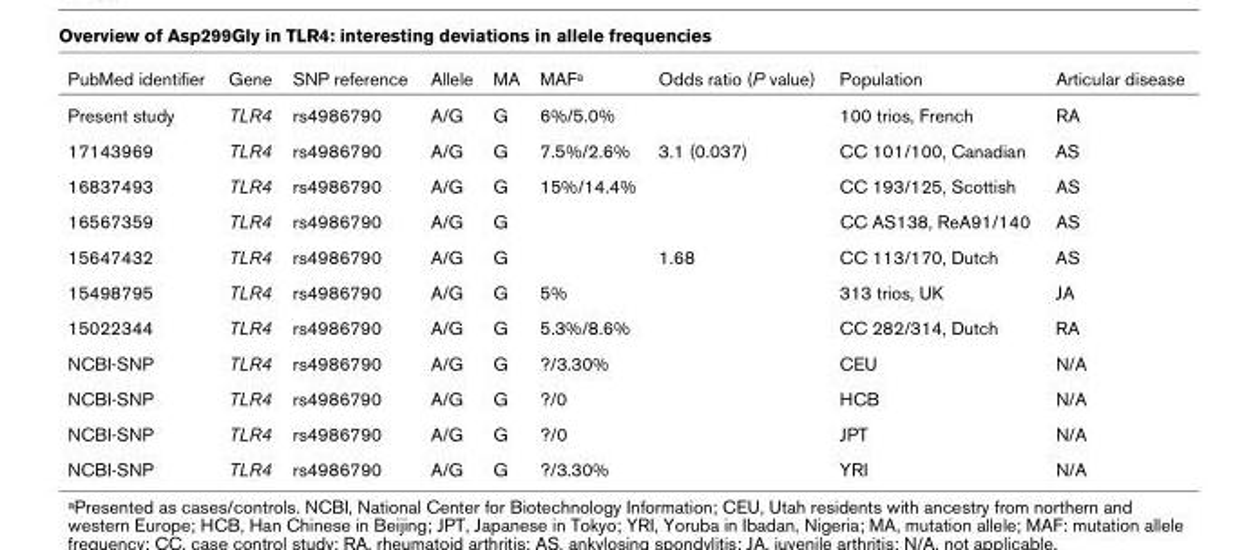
<table><thead><tr><td>PubMed identifier</td><td>Gene</td><td>SNP reference</td><td>Allele</td><td>MA</td><td>MAF<sup>a</sup></td><td>Odds ratio (P value)</td><td>Population</td><td>Articular disease</td></tr></thead><tbody><tr><td>Present study</td><td>TLR4</td><td>rs4986790</td><td>A/G</td><td>G</td><td>6%/5.0%</td><td></td><td>100 trios, French</td><td>RA</td></tr><tr><td>17143969</td><td>TLR4</td><td>rs4986790</td><td>A/G</td><td>G</td><td>7.5%/2.6%</td><td>3.1 (0.037)</td><td>CC 101/100, Canadian</td><td>AS</td></tr><tr><td>16837493</td><td>TLR4</td><td>rs4986790</td><td>A/G</td><td>G</td><td>15%/14.4%</td><td></td><td>CC 193/125, Scottish</td><td>AS</td></tr><tr><td>16567359</td><td>TLR4</td><td>rs4986790</td><td>A/G</td><td>G</td><td></td><td></td><td>CC AS138, ReA91/140</td><td>AS</td></tr><tr><td>15647432</td><td>TLR4</td><td>rs4986790</td><td>A/G</td><td>G</td><td></td><td>1.68</td><td>CC 113/170, Dutch</td><td>AS</td></tr><tr><td>15498795</td><td>TLR4</td><td>rs4986790</td><td>A/G</td><td>G</td><td>5%</td><td></td><td>313 trios, UK</td><td>JA</td></tr><tr><td>15022344</td><td>TLR4</td><td>rs4986790</td><td>A/G</td><td>G</td><td>5.3%/8.6%</td><td></td><td>CC 282/314, Dutch</td><td>RA</td></tr><tr><td>NCBI-SNP</td><td>TLR4</td><td>rs4986790</td><td>A/G</td><td>G</td><td>?/3.30%</td><td></td><td>CEU</td><td>N/A</td></tr><tr><td>NCBI-SNP</td><td>TLR4</td><td>rs4986790</td><td>A/G</td><td>G</td><td>?/0</td><td></td><td>HCB</td><td>N/A</td></tr><tr><td>NCBI-SNP</td><td>TLR4</td><td>rs4986790</td><td>A/G</td><td>G</td><td>?/0</td><td></td><td>JPT</td><td>N/A</td></tr><tr><td>NCBI-SNP</td><td>TLR4</td><td>rs4986790</td><td>A/G</td><td>G</td><td>?/3.30%</td><td></td><td>YRI</td><td>N/A</td></tr></tbody></table>